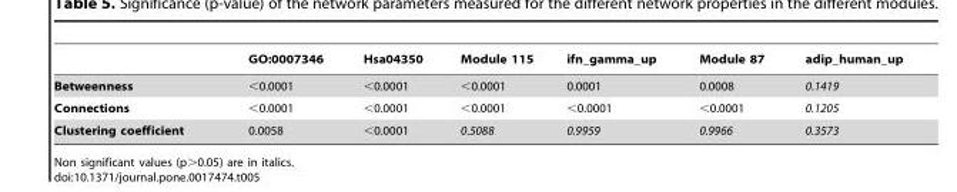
<table><thead><tr><td></td><td>GO:0007346</td><td>Hsa04350</td><td>Module 115</td><td>ifn_gamma_up</td><td>Module 87</td><td>adip_human_up</td></tr></thead><tbody><tr><td>Betweenness</td><td>&lt;0.0001</td><td>&lt;0.0001</td><td>&lt;0.0001</td><td>0.0001</td><td>0.0008</td><td>0.1419</td></tr><tr><td>Connections</td><td>&lt;0.0001</td><td>&lt;0.0001</td><td>&lt;0.0001</td><td>&lt;0.0001</td><td>&lt;0.0001</td><td>0.1205</td></tr><tr><td>Clustering coefficient</td><td>0.0058</td><td>&lt;0.0001</td><td>0.5088</td><td>0.9959</td><td>0.9966</td><td>0.3573</td></tr></tbody></table>